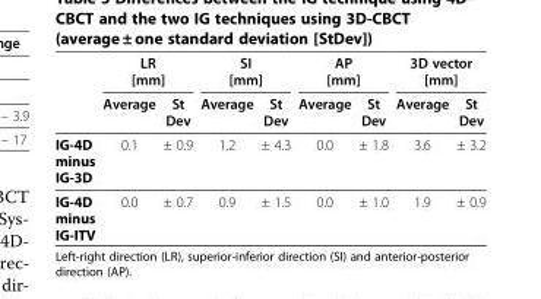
<table><thead><tr><td rowspan="2"></td><td colspan="2">LR [mm]</td><td colspan="2">SI [mm]</td><td colspan="2">AP [mm]</td><td colspan="2">3D vector [mm]</td></tr><tr><td>Average</td><td>St Dev</td><td>Average</td><td>St Dev</td><td>Average</td><td>St Dev</td><td>Average</td><td>St Dev</td></tr></thead><tbody><tr><td>IG-4D minus IG-3D</td><td>0.1</td><td>± 0.9</td><td>1.2</td><td>± 4.3</td><td>0.0</td><td>± 1.8</td><td>3.6</td><td>± 3.2</td></tr><tr><td>IG-4D minus IG-ITV</td><td>0.0</td><td>± 0.7</td><td>0.9</td><td>± 1.5</td><td>0.0</td><td>± 1.0</td><td>1.9</td><td>± 0.9</td></tr></tbody></table>